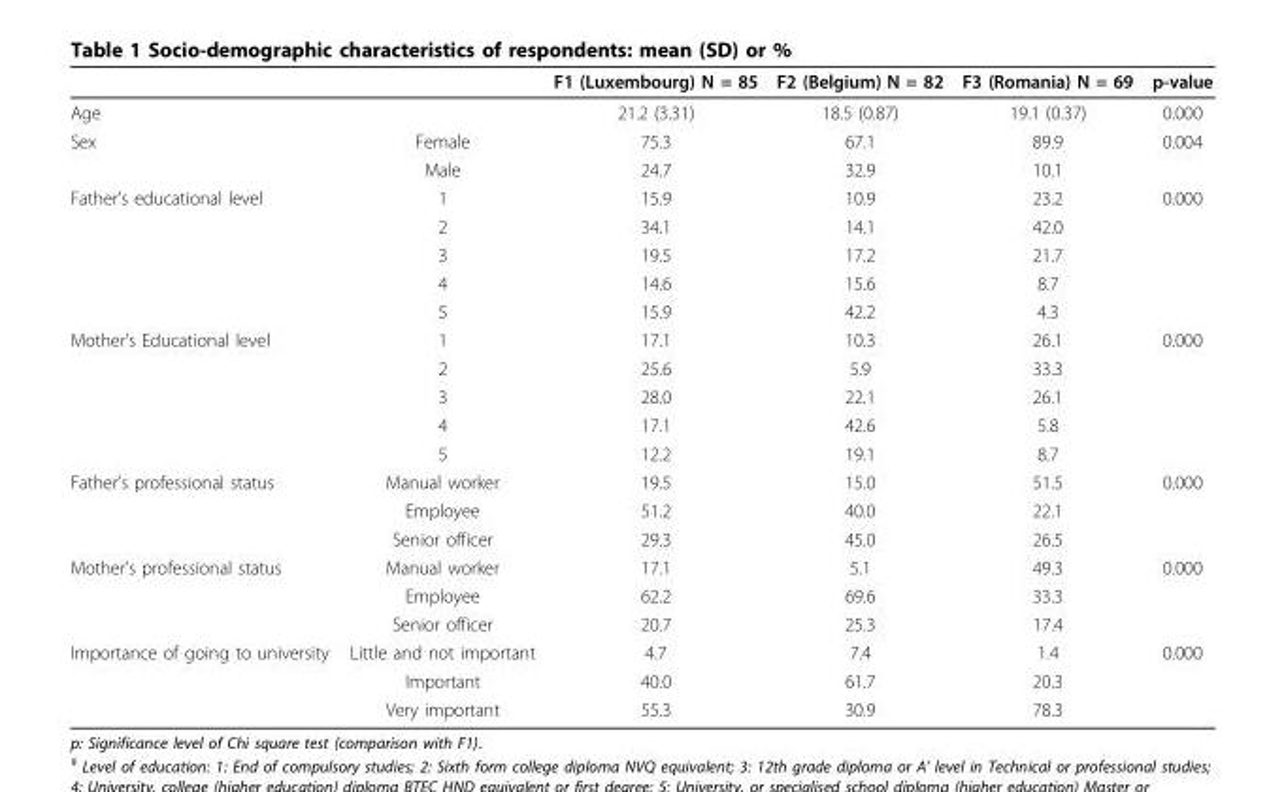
<table><thead><tr><td></td><td></td><td>F1 (Luxembourg) N = 85</td><td>F2 (Belgium) N = 82</td><td>F3 (Romania) N = 69</td><td>p-value</td></tr></thead><tbody><tr><td>Age</td><td></td><td>21.2 (3.31)</td><td>18.5 (0.87)</td><td>19.1 (0.37)</td><td>0.000</td></tr><tr><td rowspan="2">Sex</td><td>Female</td><td>75.3</td><td>67.1</td><td>89.9</td><td>0.004</td></tr><tr><td>Male</td><td>24.7</td><td>32.9</td><td>10.1</td><td></td></tr><tr><td rowspan="5">Father’s educational level</td><td>1</td><td>15.9</td><td>10.9</td><td>23.2</td><td>0.000</td></tr><tr><td>2</td><td>34.1</td><td>14.1</td><td>42.0</td><td></td></tr><tr><td>3</td><td>19.5</td><td>17.2</td><td>21.7</td><td></td></tr><tr><td>4</td><td>14.6</td><td>15.6</td><td>8.7</td><td></td></tr><tr><td>5</td><td>15.9</td><td>42.2</td><td>4.3</td><td></td></tr><tr><td rowspan="5">Mother’s Educational level</td><td>1</td><td>17.1</td><td>10.3</td><td>26.1</td><td>0.000</td></tr><tr><td>2</td><td>25.6</td><td>5.9</td><td>33.3</td><td></td></tr><tr><td>3</td><td>28.0</td><td>22.1</td><td>26.1</td><td></td></tr><tr><td>4</td><td>17.1</td><td>42.6</td><td>5.8</td><td></td></tr><tr><td>5</td><td>12.2</td><td>19.1</td><td>8.7</td><td></td></tr><tr><td rowspan="3">Father’s professional status</td><td>Manual worker</td><td>19.5</td><td>15.0</td><td>51.5</td><td>0.000</td></tr><tr><td>Employee</td><td>51.2</td><td>40.0</td><td>22.1</td><td></td></tr><tr><td>Senior officer</td><td>29.3</td><td>45.0</td><td>26.5</td><td></td></tr><tr><td rowspan="3">Mother’s professional status</td><td>Manual worker</td><td>17.1</td><td>5.1</td><td>49.3</td><td>0.000</td></tr><tr><td>Employee</td><td>62.2</td><td>69.6</td><td>33.3</td><td></td></tr><tr><td>Senior officer</td><td>20.7</td><td>25.3</td><td>17.4</td><td></td></tr><tr><td rowspan="3">Importance of going to university</td><td>Little and not important</td><td>4.7</td><td>7.4</td><td>1.4</td><td>0.000</td></tr><tr><td>Important</td><td>40.0</td><td>61.7</td><td>20.3</td><td></td></tr><tr><td>Very important</td><td>55.3</td><td>30.9</td><td>78.3</td><td></td></tr></tbody></table>